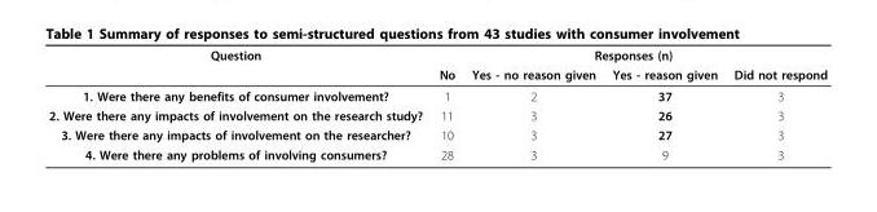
<table><thead><tr><td rowspan="2">Question</td><td colspan="4">Responses (n)</td></tr><tr><td>No</td><td>Yes - no reason given</td><td>Yes - reason given</td><td>Did not respond</td></tr></thead><tbody><tr><td>1. Were there any benefits of consumer involvement?</td><td>1</td><td>2</td><td>37</td><td>3</td></tr><tr><td>2. Were there any impacts of involvement on the research study?</td><td>11</td><td>3</td><td>26</td><td>3</td></tr><tr><td>3. Were there any impacts of involvement on the researcher?</td><td>10</td><td>3</td><td>27</td><td>3</td></tr><tr><td>4. Were there any problems of involving consumers?</td><td>28</td><td>3</td><td>9</td><td>3</td></tr></tbody></table>